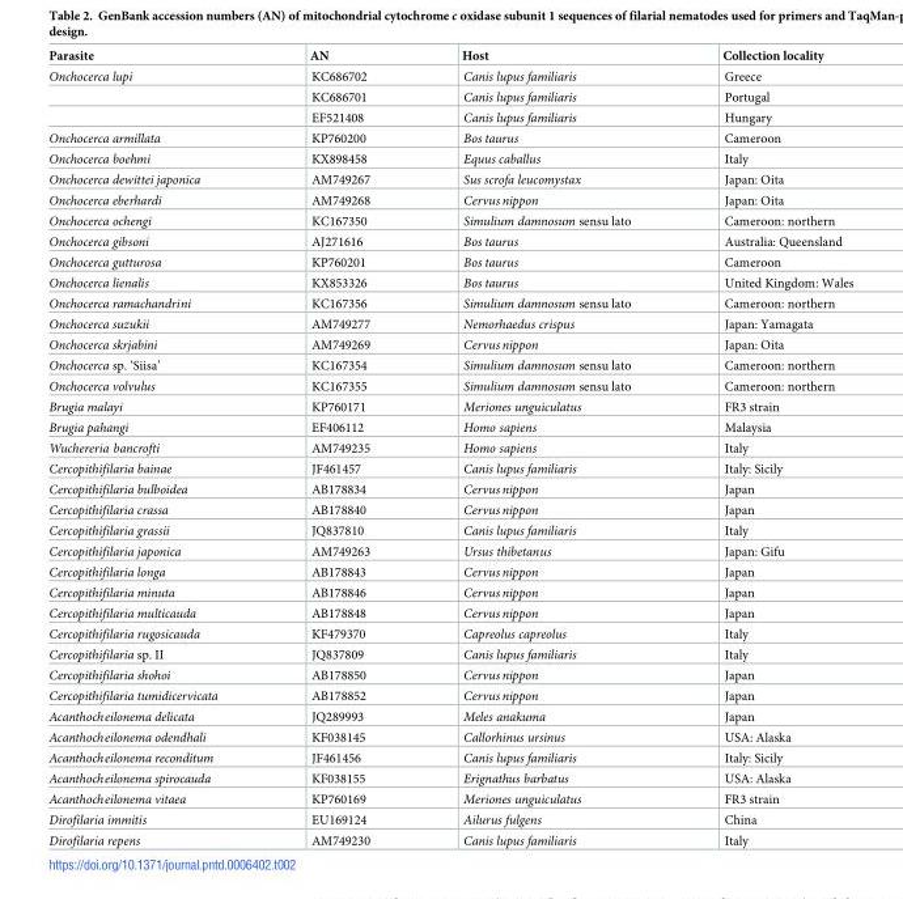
<table><thead><tr><td>Parasite</td><td>AN</td><td>Host</td><td>Collection locality</td></tr></thead><tbody><tr><td rowspan="3">Onchocerca lupi</td><td>KC686702</td><td>Canis lupus familiaris</td><td>Greece</td></tr><tr><td>KC686701</td><td>Canis lupus familiaris</td><td>Portugal</td></tr><tr><td>EF521408</td><td>Canis lupus familiaris</td><td>Hungary</td></tr><tr><td>Onchocerca armillata</td><td>KP760200</td><td>Bos taurus</td><td>Cameroon</td></tr><tr><td>Onchocerca boehmi</td><td>KX898458</td><td>Equus caballus</td><td>Italy</td></tr><tr><td>Onchocerca dewittei japonica</td><td>AM749267</td><td>Sus scrofa leucomystax</td><td>Japan: Oita</td></tr><tr><td>Onchocerca eberhardi</td><td>AM749268</td><td>Cervus nippon</td><td>Japan: Oita</td></tr><tr><td>Onchocerca ochengi</td><td>KC167350</td><td>Simulium damnosum sensu lato</td><td>Cameroon: northern</td></tr><tr><td>Onchocerca gibsoni</td><td>AJ271616</td><td>Bos taurus</td><td>Australia: Queensland</td></tr><tr><td>Onchocerca gutturosa</td><td>KP760201</td><td>Bos taurus</td><td>Cameroon</td></tr><tr><td>Onchocerca lienalis</td><td>KX853326</td><td>Bos taurus</td><td>United Kingdom: Wales</td></tr><tr><td>Onchocerca ramachandrini</td><td>KC167356</td><td>Simulium damnosum sensu lato</td><td>Cameroon: northern</td></tr><tr><td>Onchocerca suzukii</td><td>AM749277</td><td>Nemorhaedus crispus</td><td>Japan: Yamagata</td></tr><tr><td>Onchocerca skrjabini</td><td>AM749269</td><td>Cervus nippon</td><td>Japan: Oita</td></tr><tr><td>Onchocerca sp. ‘Siisa’</td><td>KC167354</td><td>Simulium damnosum sensu lato</td><td>Cameroon: northern</td></tr><tr><td>Onchocerca volvulus</td><td>KC167355</td><td>Simulium damnosum sensu lato</td><td>Cameroon: northern</td></tr><tr><td>Brugia malayi</td><td>KP760171</td><td>Meriones unguiculatus</td><td>FR3 strain</td></tr><tr><td>Brugia pahangi</td><td>EF406112</td><td>Homo sapiens</td><td>Malaysia</td></tr><tr><td>Wuchereria bancrofti</td><td>AM749235</td><td>Homo sapiens</td><td>Italy</td></tr><tr><td>Cercopithifilaria bainae</td><td>JF461457</td><td>Canis lupus familiaris</td><td>Italy: Sicily</td></tr><tr><td>Cercopithifilaria bulboidea</td><td>AB178834</td><td>Cervus nippon</td><td>Japan</td></tr><tr><td>Cercopithifilaria crassa</td><td>AB178840</td><td>Cervus nippon</td><td>Japan</td></tr><tr><td>Cercopithifilaria grassii</td><td>JQ837810</td><td>Canis lupus familiaris</td><td>Italy</td></tr><tr><td>Cercopithifilaria japonica</td><td>AM749263</td><td>Ursus thibetanus</td><td>Japan: Gifu</td></tr><tr><td>Cercopithifilaria longa</td><td>AB178843</td><td>Cervus nippon</td><td>Japan</td></tr><tr><td>Cercopithifilaria minuta</td><td>AB178846</td><td>Cervus nippon</td><td>Japan</td></tr><tr><td>Cercopithifilaria multicauda</td><td>AB178848</td><td>Cervus nippon</td><td>Japan</td></tr><tr><td>Cercopithifilaria rugosicauda</td><td>KF479370</td><td>Capreolus capreolus</td><td>Italy</td></tr><tr><td>Cercopithifilaria sp. II</td><td>JQ837809</td><td>Canis lupus familiaris</td><td>Italy</td></tr><tr><td>Cercopithifilaria shohoi</td><td>AB178850</td><td>Cervus nippon</td><td>Japan</td></tr><tr><td>Cercopithifilaria tumidicervicata</td><td>AB178852</td><td>Cervus nippon</td><td>Japan</td></tr><tr><td>Acanthocheilonema delicata</td><td>JQ289993</td><td>Meles anakuma</td><td>Japan</td></tr><tr><td>Acanthocheilonema odendhali</td><td>KF038145</td><td>Callorhinus ursinus</td><td>USA: Alaska</td></tr><tr><td>Acanthocheilonema reconditum</td><td>JF461456</td><td>Canis lupus familiaris</td><td>Italy: Sicily</td></tr><tr><td>Acanthocheilonema spirocauda</td><td>KF038155</td><td>Erignathus barbatus</td><td>USA: Alaska</td></tr><tr><td>Acanthocheilonema vitaea</td><td>KP760169</td><td>Meriones unguiculatus</td><td>FR3 strain</td></tr><tr><td>Dirofilaria immitis</td><td>EU169124</td><td>Ailurus fulgens</td><td>China</td></tr><tr><td>Dirofilaria repens</td><td>AM749230</td><td>Canis lupus familiaris</td><td>Italy</td></tr></tbody></table>